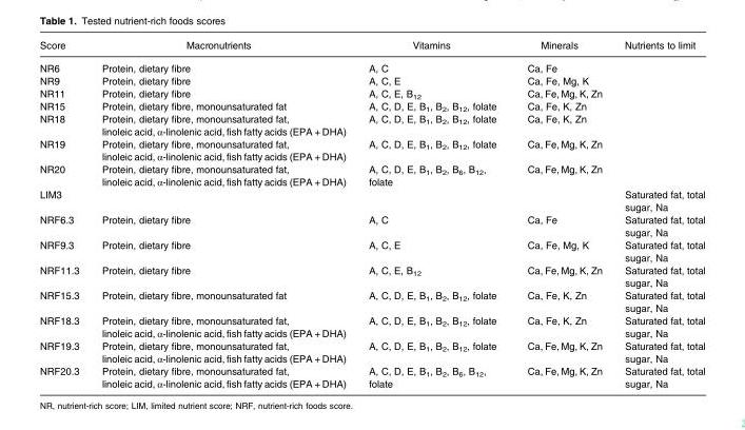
<table><thead><tr><td>Score</td><td>Macronutrients</td><td>Vitamins</td><td>Minerals</td><td>Nutrients to limit</td></tr></thead><tbody><tr><td>NR6</td><td>Protein, dietary fibre</td><td>A, C</td><td>Ca, Fe</td><td></td></tr><tr><td>NR9</td><td>Protein, dietary fibre</td><td>A, C, E</td><td>Ca, Fe, Mg, K</td><td></td></tr><tr><td>NR11</td><td>Protein, dietary fibre</td><td>A, C, E, B<sub>12</sub></td><td>Ca, Fe, Mg, K, Zn</td><td></td></tr><tr><td>NR15</td><td>Protein, dietary fibre, monounsaturated fat</td><td>A, C, D, E, B<sub>1</sub>, B<sub>2</sub>, B<sub>12</sub>, folate</td><td>Ca, Fe, K, Zn</td><td></td></tr><tr><td>NR18</td><td>Protein, dietary fibre, monounsaturated fat, linoleic acid, α-linolenic acid, fish fatty acids (EPA + DHA)</td><td>A, C, D, E, B<sub>1</sub>, B<sub>2</sub>, B<sub>12</sub>, folate</td><td>Ca, Fe, K, Zn</td><td></td></tr><tr><td>NR19</td><td>Protein, dietary fibre, monounsaturated fat, linoleic acid, α-linolenic acid, fish fatty acids (EPA + DHA)</td><td>A, C, D, E, B<sub>1</sub>, B<sub>2</sub>, B<sub>12</sub>, folate</td><td>Ca, Fe, Mg, K, Zn</td><td></td></tr><tr><td>NR20</td><td>Protein, dietary fibre, monounsaturated fat, linoleic acid, α-linolenic acid, fish fatty acids (EPA + DHA)</td><td>A, C, D, E, B<sub>1</sub>, B<sub>2</sub>, B<sub>6</sub>, B<sub>12</sub>, folate</td><td>Ca, Fe, Mg, K, Zn</td><td></td></tr><tr><td>LIM3</td><td></td><td></td><td></td><td>Saturated fat, total sugar, Na</td></tr><tr><td>NRF6.3</td><td>Protein, dietary fibre</td><td>A, C</td><td>Ca, Fe</td><td>Saturated fat, total sugar, Na</td></tr><tr><td>NRF9.3</td><td>Protein, dietary fibre</td><td>A, C, E</td><td>Ca, Fe, Mg, K</td><td>Saturated fat, total sugar, Na</td></tr><tr><td>NRF11.3</td><td>Protein, dietary fibre</td><td>A, C, E, B<sub>12</sub></td><td>Ca, Fe, Mg, K, Zn</td><td>Saturated fat, total sugar, Na</td></tr><tr><td>NRF15.3</td><td>Protein, dietary fibre, monounsaturated fat</td><td>A, C, D, E, B<sub>1</sub>, B<sub>2</sub>, B<sub>12</sub>, folate</td><td>Ca, Fe, K, Zn</td><td>Saturated fat, total sugar, Na</td></tr><tr><td>NRF18.3</td><td>Protein, dietary fibre, monounsaturated fat, linoleic acid, α-linolenic acid, fish fatty acids (EPA + DHA)</td><td>A, C, D, E, B<sub>1</sub>, B<sub>2</sub>, B<sub>12</sub>, folate</td><td>Ca, Fe, K, Zn</td><td>Saturated fat, total sugar, Na</td></tr><tr><td>NRF19.3</td><td>Protein, dietary fibre, monounsaturated fat, linoleic acid, α-linolenic acid, fish fatty acids (EPA + DHA)</td><td>A, C, D, E, B<sub>1</sub>, B<sub>2</sub>, B<sub>12</sub>, folate</td><td>Ca, Fe, Mg, K, Zn</td><td>Saturated fat, total sugar, Na</td></tr><tr><td>NRF20.3</td><td>Protein, dietary fibre, monounsaturated fat, linoleic acid, α-linolenic acid, fish fatty acids (EPA + DHA)</td><td>A, C, D, E, B<sub>1</sub>, B<sub>2</sub>, B<sub>6</sub>, B<sub>12</sub>, folate</td><td>Ca, Fe, Mg, K, Zn</td><td>Saturated fat, total sugar, Na</td></tr></tbody></table>